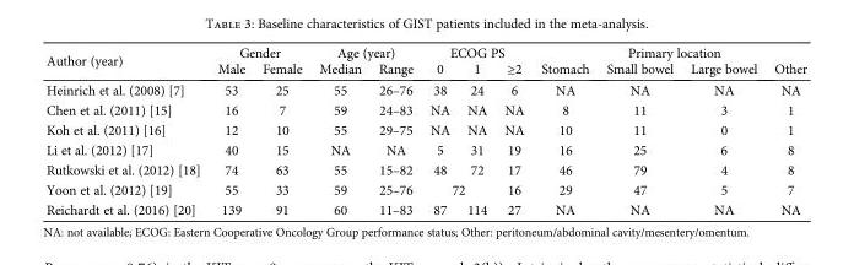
<table><thead><tr><td rowspan="2">Author (year)</td><td colspan="2">Gender</td><td colspan="2">Age (year)</td><td colspan="3">ECOG PS</td><td colspan="4">Primary location</td></tr><tr><td>Male</td><td>Female</td><td>Median</td><td>Range</td><td>0</td><td>1</td><td>≥2</td><td>Stomach</td><td>Small bowel</td><td>Large bowel</td><td>Other</td></tr></thead><tbody><tr><td>Heinrich et al. (2008) [7]</td><td>53</td><td>25</td><td>55</td><td>26–76</td><td>38</td><td>24</td><td>6</td><td>NA</td><td>NA</td><td>NA</td><td>NA</td></tr><tr><td>Chen et al. (2011) [15]</td><td>16</td><td>7</td><td>59</td><td>24–83</td><td>NA</td><td>NA</td><td>NA</td><td>8</td><td>11</td><td>3</td><td>1</td></tr><tr><td>Koh et al. (2011) [16]</td><td>12</td><td>10</td><td>55</td><td>29–75</td><td>NA</td><td>NA</td><td>NA</td><td>10</td><td>11</td><td>0</td><td>1</td></tr><tr><td>Li et al. (2012) [17]</td><td>40</td><td>15</td><td>NA</td><td>NA</td><td>5</td><td>31</td><td>19</td><td>16</td><td>25</td><td>6</td><td>8</td></tr><tr><td>Rutkowski et al. (2012) [18]</td><td>74</td><td>63</td><td>55</td><td>15–82</td><td>48</td><td>72</td><td>17</td><td>46</td><td>79</td><td>4</td><td>8</td></tr><tr><td>Yoon et al. (2012) [19]</td><td>55</td><td>33</td><td>59</td><td>25–76</td><td colspan="2">72</td><td>16</td><td>29</td><td>47</td><td>5</td><td>7</td></tr><tr><td>Reichardt et al. (2016) [20]</td><td>139</td><td>91</td><td>60</td><td>11–83</td><td>87</td><td>114</td><td>27</td><td>NA</td><td>NA</td><td>NA</td><td>NA</td></tr></tbody></table>